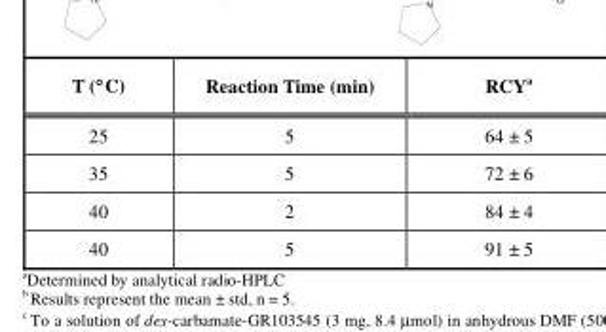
<table><thead><tr><td>T (°C)</td><td>Reaction Time (min)</td><td>RCY<sup>a</sup></td></tr></thead><tbody><tr><td>25</td><td>5</td><td>64 ± 5</td></tr><tr><td>35</td><td>5</td><td>72 ± 6</td></tr><tr><td>40</td><td>2</td><td>84 ± 4</td></tr><tr><td>40</td><td>5</td><td>91 ± 5</td></tr></tbody></table>